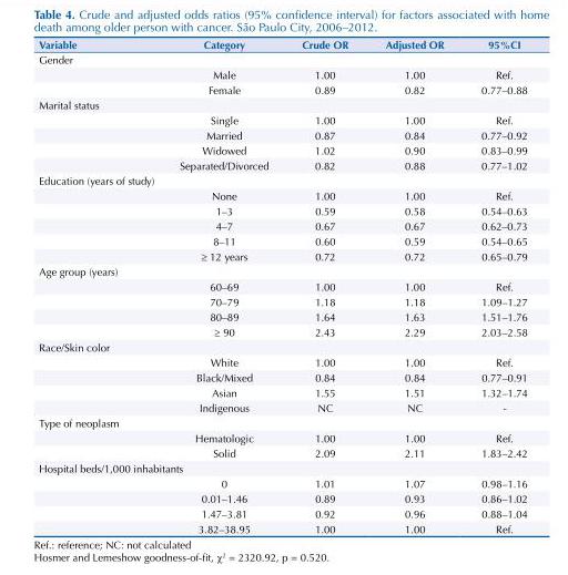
<table><thead><tr><td>Variable</td><td>Category</td><td>Crude OR</td><td>Adjusted OR</td><td>95%CI</td></tr></thead><tbody><tr><td colspan="5">Gender</td></tr><tr><td></td><td>Male</td><td>1.00</td><td>1.00</td><td>Ref.</td></tr><tr><td></td><td>Female</td><td>0.89</td><td>0.82</td><td>0.77–0.88</td></tr><tr><td colspan="5">Marital status</td></tr><tr><td></td><td>Single</td><td>1.00</td><td>1.00</td><td>Ref.</td></tr><tr><td></td><td>Married</td><td>0.87</td><td>0.84</td><td>0.77–0.92</td></tr><tr><td></td><td>Widowed</td><td>1.02</td><td>0.90</td><td>0.83–0.99</td></tr><tr><td></td><td>Separated/Divorced</td><td>0.82</td><td>0.88</td><td>0.77–1.02</td></tr><tr><td colspan="5">Education (years of study)</td></tr><tr><td></td><td>None</td><td>1.00</td><td>1.00</td><td>Ref.</td></tr><tr><td></td><td>1–3</td><td>0.59</td><td>0.58</td><td>0.54–0.63</td></tr><tr><td></td><td>4–7</td><td>0.67</td><td>0.67</td><td>0.62–0.73</td></tr><tr><td></td><td>8–11</td><td>0.60</td><td>0.59</td><td>0.54–0.65</td></tr><tr><td></td><td>≥ 12 years</td><td>0.72</td><td>0.72</td><td>0.65–0.79</td></tr><tr><td colspan="5">Age group (years)</td></tr><tr><td></td><td>60–69</td><td>1.00</td><td>1.00</td><td>Ref.</td></tr><tr><td></td><td>70–79</td><td>1.18</td><td>1.18</td><td>1.09–1.27</td></tr><tr><td></td><td>80–89</td><td>1.64</td><td>1.63</td><td>1.51–1.76</td></tr><tr><td></td><td>≥ 90</td><td>2.43</td><td>2.29</td><td>2.03–2.58</td></tr><tr><td colspan="5">Race/Skin color</td></tr><tr><td></td><td>White</td><td>1.00</td><td>1.00</td><td>Ref.</td></tr><tr><td></td><td>Black/Mixed</td><td>0.84</td><td>0.84</td><td>0.77–0.91</td></tr><tr><td></td><td>Asian</td><td>1.55</td><td>1.51</td><td>1.32–1.74</td></tr><tr><td></td><td>Indigenous</td><td>NC</td><td>NC</td><td>-</td></tr><tr><td colspan="5">Type of neoplasm</td></tr><tr><td></td><td>Hematologic</td><td>1.00</td><td>1.00</td><td>Ref.</td></tr><tr><td></td><td>Solid</td><td>2.09</td><td>2.11</td><td>1.83–2.42</td></tr><tr><td colspan="5">Hospital beds/1,000 inhabitants</td></tr><tr><td></td><td>0</td><td>1.01</td><td>1.07</td><td>0.98–1.16</td></tr><tr><td></td><td>0.01–1.46</td><td>0.89</td><td>0.93</td><td>0.86–1.02</td></tr><tr><td></td><td>1.47–3.81</td><td>0.92</td><td>0.96</td><td>0.88–1.04</td></tr><tr><td></td><td>3.82–38.95</td><td>1.00</td><td>1.00</td><td>Ref.</td></tr></tbody></table>